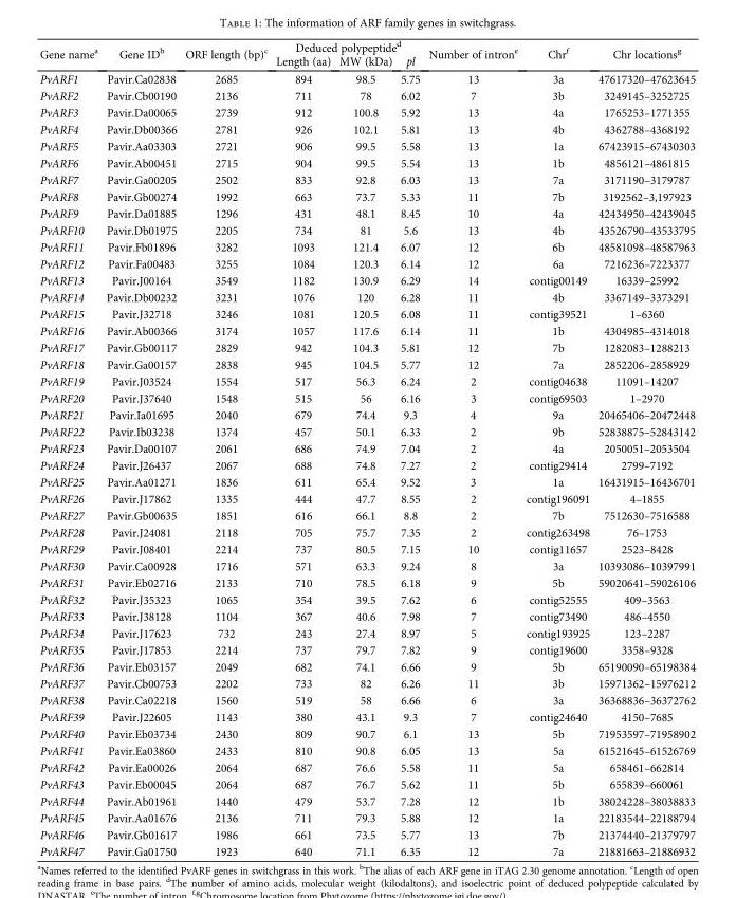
<table><thead><tr><td rowspan="2">Gene name<sup>a</sup></td><td rowspan="2">Gene ID<sup>b</sup></td><td rowspan="2">ORF length (bp)<sup>c</sup></td><td colspan="3">Deduced polypeptide<sup>d</sup></td><td rowspan="2">Number of intron<sup>e</sup></td><td rowspan="2">Chr<sup>f</sup></td><td rowspan="2">Chr locations<sup>g</sup></td></tr><tr><td>Length (aa)</td><td>MW (kDa)</td><td>pl</td></tr></thead><tbody><tr><td>PvARF1</td><td>Pavir.Ca02838</td><td>2685</td><td>894</td><td>98.5</td><td>5.75</td><td>13</td><td>3a</td><td>47617320–47623645</td></tr><tr><td>PvARF2</td><td>Pavir.Cb00190</td><td>2136</td><td>711</td><td>78</td><td>6.02</td><td>7</td><td>3b</td><td>3249145–3252725</td></tr><tr><td>PvARF3</td><td>Pavir.Da00065</td><td>2739</td><td>912</td><td>100.8</td><td>5.92</td><td>13</td><td>4a</td><td>1765253–1771355</td></tr><tr><td>PvARF4</td><td>Pavir.Db00366</td><td>2781</td><td>926</td><td>102.1</td><td>5.81</td><td>13</td><td>4b</td><td>4362788–4368192</td></tr><tr><td>PvARF5</td><td>Pavir.Aa03303</td><td>2721</td><td>906</td><td>99.5</td><td>5.58</td><td>13</td><td>1a</td><td>67423915–67430303</td></tr><tr><td>PvARF6</td><td>Pavir.Ab00451</td><td>2715</td><td>904</td><td>99.5</td><td>5.54</td><td>13</td><td>1b</td><td>4856121–4861815</td></tr><tr><td>PvARF7</td><td>Pavir.Ga00205</td><td>2502</td><td>833</td><td>92.8</td><td>6.03</td><td>13</td><td>7a</td><td>3171190–3179787</td></tr><tr><td>PvARF8</td><td>Pavir.Gb00274</td><td>1992</td><td>663</td><td>73.7</td><td>5.33</td><td>11</td><td>7b</td><td>3192562–3,197923</td></tr><tr><td>PvARF9</td><td>Pavir.Da01885</td><td>1296</td><td>431</td><td>48.1</td><td>8.45</td><td>10</td><td>4a</td><td>42434950–42439045</td></tr><tr><td>PvARF10</td><td>Pavir.Db01975</td><td>2205</td><td>734</td><td>81</td><td>5.6</td><td>13</td><td>4b</td><td>43526790–43533795</td></tr><tr><td>PvARF11</td><td>Pavir.Fb01896</td><td>3282</td><td>1093</td><td>121.4</td><td>6.07</td><td>12</td><td>6b</td><td>48581098–48587963</td></tr><tr><td>PvARF12</td><td>Pavir.Fa00483</td><td>3255</td><td>1084</td><td>120.3</td><td>6.14</td><td>12</td><td>6a</td><td>7216236–7223377</td></tr><tr><td>PvARF13</td><td>Pavir.J00164</td><td>3549</td><td>1182</td><td>130.9</td><td>6.29</td><td>14</td><td>contig00149</td><td>16339–25992</td></tr><tr><td>PvARF14</td><td>Pavir.Db00232</td><td>3231</td><td>1076</td><td>120</td><td>6.28</td><td>11</td><td>4b</td><td>3367149–3373291</td></tr><tr><td>PvARF15</td><td>Pavir.J32718</td><td>3246</td><td>1081</td><td>120.5</td><td>6.08</td><td>11</td><td>contig39521</td><td>1–6360</td></tr><tr><td>PvARF16</td><td>Pavir.Ab00366</td><td>3174</td><td>1057</td><td>117.6</td><td>6.14</td><td>11</td><td>1b</td><td>4304985–4314018</td></tr><tr><td>PvARF17</td><td>Pavir.Gb00117</td><td>2829</td><td>942</td><td>104.3</td><td>5.81</td><td>12</td><td>7b</td><td>1282083–1288213</td></tr><tr><td>PvARF18</td><td>Pavir.Ga00157</td><td>2838</td><td>945</td><td>104.5</td><td>5.77</td><td>12</td><td>7a</td><td>2852206–2858929</td></tr><tr><td>PvARF19</td><td>Pavir.J03524</td><td>1554</td><td>517</td><td>56.3</td><td>6.24</td><td>2</td><td>contig04638</td><td>11091–14207</td></tr><tr><td>PvARF20</td><td>Pavir.J37640</td><td>1548</td><td>515</td><td>56</td><td>6.16</td><td>3</td><td>contig69503</td><td>1–2970</td></tr><tr><td>PvARF21</td><td>Pavir.Ia01695</td><td>2040</td><td>679</td><td>74.4</td><td>9.3</td><td>4</td><td>9a</td><td>20465406–20472448</td></tr><tr><td>PvARF22</td><td>Pavir.Ib03238</td><td>1374</td><td>457</td><td>50.1</td><td>6.33</td><td>2</td><td>9b</td><td>52838875–52843142</td></tr><tr><td>PvARF23</td><td>Pavir.Da00107</td><td>2061</td><td>686</td><td>74.9</td><td>7.04</td><td>2</td><td>4a</td><td>2050051–2053504</td></tr><tr><td>PvARF24</td><td>Pavir.J26437</td><td>2067</td><td>688</td><td>74.8</td><td>7.27</td><td>2</td><td>contig29414</td><td>2799–7192</td></tr><tr><td>PvARF25</td><td>Pavir.Aa01271</td><td>1836</td><td>611</td><td>65.4</td><td>9.52</td><td>3</td><td>1a</td><td>16431915–16436701</td></tr><tr><td>PvARF26</td><td>Pavir.J17862</td><td>1335</td><td>444</td><td>47.7</td><td>8.55</td><td>2</td><td>contig196091</td><td>4–1855</td></tr><tr><td>PvARF27</td><td>Pavir.Gb00635</td><td>1851</td><td>616</td><td>66.1</td><td>8.8</td><td>2</td><td>7b</td><td>7512630–7516588</td></tr><tr><td>PvARF28</td><td>Pavir.J24081</td><td>2118</td><td>705</td><td>75.7</td><td>7.35</td><td>2</td><td>contig263498</td><td>76–1753</td></tr><tr><td>PvARF29</td><td>Pavir.J08401</td><td>2214</td><td>737</td><td>80.5</td><td>7.15</td><td>10</td><td>contig11657</td><td>2523–8428</td></tr><tr><td>PvARF30</td><td>Pavir.Ca00928</td><td>1716</td><td>571</td><td>63.3</td><td>9.24</td><td>8</td><td>3a</td><td>10393086–10397991</td></tr><tr><td>PvARF31</td><td>Pavir.Eb02716</td><td>2133</td><td>710</td><td>78.5</td><td>6.18</td><td>9</td><td>5b</td><td>59020641–59026106</td></tr><tr><td>PvARF32</td><td>Pavir.J35323</td><td>1065</td><td>354</td><td>39.5</td><td>7.62</td><td>6</td><td>contig52555</td><td>409–3563</td></tr><tr><td>PvARF33</td><td>Pavir.J38128</td><td>1104</td><td>367</td><td>40.6</td><td>7.98</td><td>7</td><td>contig73490</td><td>486–4550</td></tr><tr><td>PvARF34</td><td>Pavir.J17623</td><td>732</td><td>243</td><td>27.4</td><td>8.97</td><td>5</td><td>contig193925</td><td>123–2287</td></tr><tr><td>PvARF35</td><td>Pavir.J17853</td><td>2214</td><td>737</td><td>79.7</td><td>7.82</td><td>9</td><td>contig19600</td><td>3358–9328</td></tr><tr><td>PvARF36</td><td>Pavir.Eb03157</td><td>2049</td><td>682</td><td>74.1</td><td>6.66</td><td>9</td><td>5b</td><td>65190090–65198384</td></tr><tr><td>PvARF37</td><td>Pavir.Cb00753</td><td>2202</td><td>733</td><td>82</td><td>6.26</td><td>11</td><td>3b</td><td>15971362–15976212</td></tr><tr><td>PvARF38</td><td>Pavir.Ca02218</td><td>1560</td><td>519</td><td>58</td><td>6.66</td><td>6</td><td>3a</td><td>36368836–36372762</td></tr><tr><td>PvARF39</td><td>Pavir.J22605</td><td>1143</td><td>380</td><td>43.1</td><td>9.3</td><td>7</td><td>contig24640</td><td>4150–7685</td></tr><tr><td>PvARF40</td><td>Pavir.Eb03734</td><td>2430</td><td>809</td><td>90.7</td><td>6.1</td><td>13</td><td>5b</td><td>71953597–71958902</td></tr><tr><td>PvARF41</td><td>Pavir.Ea03860</td><td>2433</td><td>810</td><td>90.8</td><td>6.05</td><td>13</td><td>5a</td><td>61521645–61526769</td></tr><tr><td>PvARF42</td><td>Pavir.Ea00026</td><td>2064</td><td>687</td><td>76.6</td><td>5.58</td><td>11</td><td>5a</td><td>658461–662814</td></tr><tr><td>PvARF43</td><td>Pavir.Eb00045</td><td>2064</td><td>687</td><td>76.7</td><td>5.62</td><td>11</td><td>5b</td><td>655839–660061</td></tr><tr><td>PvARF44</td><td>Pavir.Ab01961</td><td>1440</td><td>479</td><td>53.7</td><td>7.28</td><td>12</td><td>1b</td><td>38024228–38038833</td></tr><tr><td>PvARF45</td><td>Pavir.Aa01676</td><td>2136</td><td>711</td><td>79.3</td><td>5.88</td><td>12</td><td>1a</td><td>22183544–22188794</td></tr><tr><td>PvARF46</td><td>Pavir.Gb01617</td><td>1986</td><td>661</td><td>73.5</td><td>5.77</td><td>13</td><td>7b</td><td>21374440–21379797</td></tr><tr><td>PvARF47</td><td>Pavir.Ga01750</td><td>1923</td><td>640</td><td>71.1</td><td>6.35</td><td>12</td><td>7a</td><td>21881663–21886932</td></tr></tbody></table>